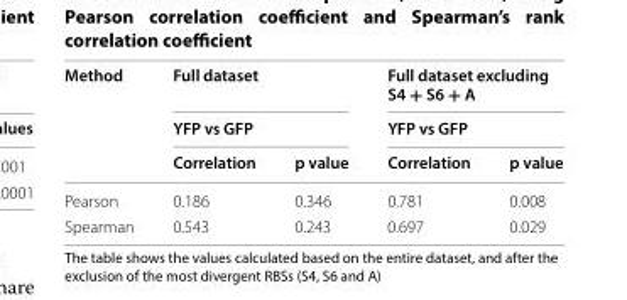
<table><thead><tr><td rowspan="3">Method</td><td rowspan="2" colspan="2">Full dataset YFP vs GFP</td><td rowspan="2" colspan="2">Full dataset excluding S4 + S6 + A YFP vs GFP</td></tr><tr></tr><tr><td>Correlation</td><td>p value</td><td>Correlation</td><td>p value</td></tr></thead><tbody><tr><td>Pearson</td><td>0.186</td><td>0.346</td><td>0.781</td><td>0.008</td></tr><tr><td>Spearman</td><td>0.543</td><td>0.243</td><td>0.697</td><td>0.029</td></tr></tbody></table>